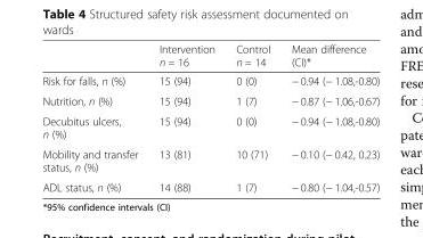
<table><thead><tr><td></td><td>Intervention n = 16</td><td>Control n = 14</td><td>Mean difference (CI)*</td></tr></thead><tbody><tr><td>Risk for falls, n (%)</td><td>15 (94)</td><td>0 (0)</td><td>− 0.94 (− 1.08,-0.80)</td></tr><tr><td>Nutrition, n (%)</td><td>15 (94)</td><td>1 (7)</td><td>− 0.87 (− 1.06,-0.67)</td></tr><tr><td>Decubitus ulcers, n (%)</td><td>15 (94)</td><td>0 (0)</td><td>− 0.94 (− 1.08,-0.80)</td></tr><tr><td>Mobility and transfer status, n (%)</td><td>13 (81)</td><td>10 (71)</td><td>− 0.10 (− 0.42, 0.23)</td></tr><tr><td>ADL status, n (%)</td><td>14 (88)</td><td>1 (7)</td><td>− 0.80 (− 1.04,-0.57)</td></tr></tbody></table>